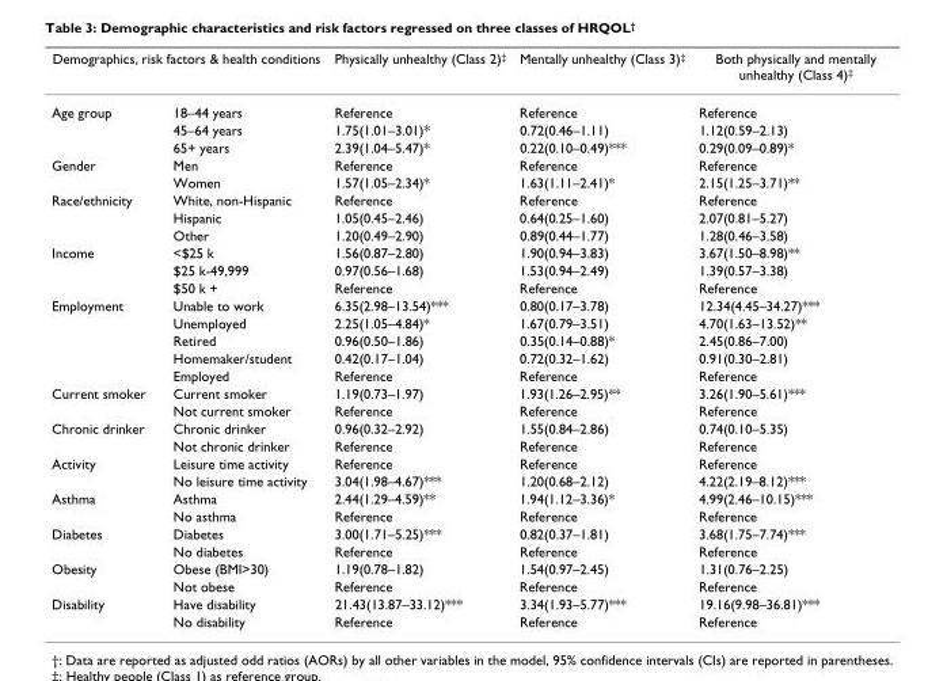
<table><thead><tr><td colspan="2">Demographics, risk factors &amp; health conditions</td><td rowspan="2">Physically unhealthy (Class 2)<sup>‡</sup> Reference</td><td rowspan="2">Mentally unhealthy (Class 3)<sup>‡</sup> Reference</td><td rowspan="2">Both physically and mentally unhealthy (Class 4)<sup>‡</sup> Reference</td></tr><tr><td>Age group</td><td>18–44 years</td></tr></thead><tbody><tr><td></td><td>45–64 years</td><td>1.75(1.01–3.01)*</td><td>0.72(0.46–1.11)</td><td>1.12(0.59–2.13)</td></tr><tr><td></td><td>65+ years</td><td>2.39(1.04–5.47)*</td><td>0.22(0.10–0.49)***</td><td>0.29(0.09–0.89)*</td></tr><tr><td rowspan="2">Gender</td><td>Men</td><td>Reference</td><td>Reference</td><td>Reference</td></tr><tr><td>Women</td><td>1.57(1.05–2.34)*</td><td>1.63(1.11–2.41)*</td><td>2.15(1.25–3.71)**</td></tr><tr><td rowspan="3">Race/ethnicity</td><td>White, non-Hispanic</td><td>Reference</td><td>Reference</td><td>Reference</td></tr><tr><td>Hispanic</td><td>1.05(0.45–2.46)</td><td>0.64(0.25–1.60)</td><td>2.07(0.81–5.27)</td></tr><tr><td>Other</td><td>1.20(0.49–2.90)</td><td>0.89(0.44–1.77)</td><td>1.28(0.46–3.58)</td></tr><tr><td rowspan="3">Income</td><td>&lt;$25 k</td><td>1.56(0.87–2.80)</td><td>1.90(0.94–3.83)</td><td>3.67(1.50–8.98)**</td></tr><tr><td>$25 k-49,999</td><td>0.97(0.56–1.68)</td><td>1.53(0.94–2.49)</td><td>1.39(0.57–3.38)</td></tr><tr><td>$50 k +</td><td>Reference</td><td>Reference</td><td>Reference</td></tr><tr><td rowspan="5">Employment</td><td>Unable to work</td><td>6.35(2.98–13.54)***</td><td>0.80(0.17–3.78)</td><td>12.34(4.45–34.27)***</td></tr><tr><td>Unemployed</td><td>2.25(1.05–4.84)*</td><td>1.67(0.79–3.51)</td><td>4.70(1.63–13.52)**</td></tr><tr><td>Retired</td><td>0.96(0.50–1.86)</td><td>0.35(0.14–0.88)*</td><td>2.45(0.86–7.00)</td></tr><tr><td>Homemaker/student</td><td>0.42(0.17–1.04)</td><td>0.72(0.32–1.62)</td><td>0.91(0.30–2.81)</td></tr><tr><td>Employed</td><td>Reference</td><td>Reference</td><td>Reference</td></tr><tr><td rowspan="2">Current smoker</td><td>Current smoker</td><td>1.19(0.73–1.97)</td><td>1.93(1.26–2.95)**</td><td>3.26(1.90–5.61)***</td></tr><tr><td>Not current smoker</td><td>Reference</td><td>Reference</td><td>Reference</td></tr><tr><td rowspan="2">Chronic drinker</td><td>Chronic drinker</td><td>0.96(0.32–2.92)</td><td>1.55(0.84–2.86)</td><td>0.74(0.10–5.35)</td></tr><tr><td>Not chronic drinker</td><td>Reference</td><td>Reference</td><td>Reference</td></tr><tr><td rowspan="2">Activity</td><td>Leisure time activity</td><td>Reference</td><td>Reference</td><td>Reference</td></tr><tr><td>No leisure time activity</td><td>3.04(1.98–4.67)***</td><td>1.20(0.68–2.12)</td><td>4.22(2.19–8.12)***</td></tr><tr><td rowspan="2">Asthma</td><td>Asthma</td><td>2.44(1.29–4.59)**</td><td>1.94(1.12–3.36)*</td><td>4.99(2.46–10.15)***</td></tr><tr><td>No asthma</td><td>Reference</td><td>Reference</td><td>Reference</td></tr><tr><td rowspan="2">Diabetes</td><td>Diabetes</td><td>3.00(1.71–5.25)***</td><td>0.82(0.37–1.81)</td><td>3.68(1.75–7.74)***</td></tr><tr><td>No diabetes</td><td>Reference</td><td>Reference</td><td>Reference</td></tr><tr><td rowspan="2">Obesity</td><td>Obese (BMI&gt;30)</td><td>1.19(0.78–1.82)</td><td>1.54(0.97–2.45)</td><td>1.31(0.76–2.25)</td></tr><tr><td>Not obese</td><td>Reference</td><td>Reference</td><td>Reference</td></tr><tr><td rowspan="2">Disability</td><td>Have disability</td><td>21.43(13.87–33.12)***</td><td>3.34(1.93–5.77)***</td><td>19.16(9.98–36.81)***</td></tr><tr><td>No disability</td><td>Reference</td><td>Reference</td><td>Reference</td></tr></tbody></table>